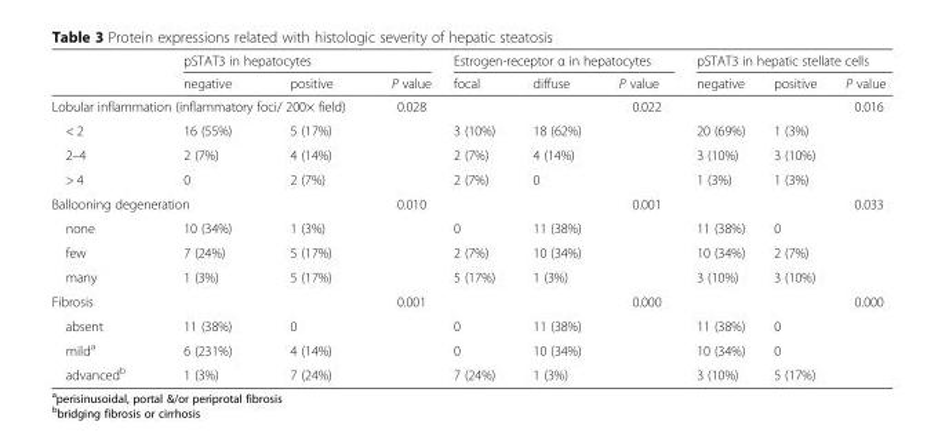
<table><thead><tr><td rowspan="2"></td><td colspan="3">pSTAT3 in hepatocytes</td><td colspan="3">Estrogen-receptor α in hepatocytes</td><td colspan="3">pSTAT3 in hepatic stellate cells</td></tr><tr><td>negative</td><td>positive</td><td>P value</td><td>focal</td><td>diffuse</td><td>P value</td><td>negative</td><td>positive</td><td>P value</td></tr></thead><tbody><tr><td colspan="3">Lobular inflammation (inflammatory foci/ 200× field)</td><td>0.028</td><td></td><td></td><td>0.022</td><td></td><td></td><td>0.016</td></tr><tr><td>&lt; 2</td><td>16 (55%)</td><td>5 (17%)</td><td></td><td>3 (10%)</td><td>18 (62%)</td><td></td><td>20 (69%)</td><td>1 (3%)</td><td></td></tr><tr><td>2–4</td><td>2 (7%)</td><td>4 (14%)</td><td></td><td>2 (7%)</td><td>4 (14%)</td><td></td><td>3 (10%)</td><td>3 (10%)</td><td></td></tr><tr><td>&gt; 4</td><td>0</td><td>2 (7%)</td><td></td><td>2 (7%)</td><td>0</td><td></td><td>1 (3%)</td><td>1 (3%)</td><td></td></tr><tr><td colspan="2">Ballooning degeneration</td><td></td><td>0.010</td><td></td><td></td><td>0.001</td><td></td><td></td><td>0.033</td></tr><tr><td>none</td><td>10 (34%)</td><td>1 (3%)</td><td></td><td>0</td><td>11 (38%)</td><td></td><td>11 (38%)</td><td>0</td><td></td></tr><tr><td>few</td><td>7 (24%)</td><td>5 (17%)</td><td></td><td>2 (7%)</td><td>10 (34%)</td><td></td><td>10 (34%)</td><td>2 (7%)</td><td></td></tr><tr><td>many</td><td>1 (3%)</td><td>5 (17%)</td><td></td><td>5 (17%)</td><td>1 (3%)</td><td></td><td>3 (10%)</td><td>3 (10%)</td><td></td></tr><tr><td>Fibrosis</td><td></td><td></td><td>0.001</td><td></td><td></td><td>0.000</td><td></td><td></td><td>0.000</td></tr><tr><td>absent</td><td>11 (38%)</td><td>0</td><td></td><td>0</td><td>11 (38%)</td><td></td><td>11 (38%)</td><td>0</td><td></td></tr><tr><td>mild<sup>a</sup></td><td>6 (231%)</td><td>4 (14%)</td><td></td><td>0</td><td>10 (34%)</td><td></td><td>10 (34%)</td><td>0</td><td></td></tr><tr><td>advanced<sup>b</sup></td><td>1 (3%)</td><td>7 (24%)</td><td></td><td>7 (24%)</td><td>1 (3%)</td><td></td><td>3 (10%)</td><td>5 (17%)</td><td></td></tr></tbody></table>